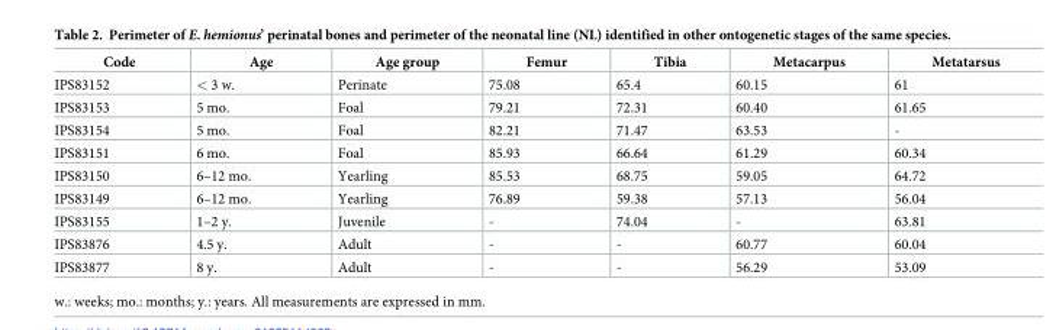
<table><thead><tr><td>Code</td><td>Age</td><td>Age group</td><td>Femur</td><td>Tibia</td><td>Metacarpus</td><td>Metatarsus</td></tr></thead><tbody><tr><td>IPS83152</td><td>&lt; 3 w.</td><td>Perinate</td><td>75.08</td><td>65.4</td><td>60.15</td><td>61</td></tr><tr><td>IPS83153</td><td>5 mo.</td><td>Foal</td><td>79.21</td><td>72.31</td><td>60.40</td><td>61.65</td></tr><tr><td>IPS83154</td><td>5 mo.</td><td>Foal</td><td>82.21</td><td>71.47</td><td>63.53</td><td>-</td></tr><tr><td>IPS83151</td><td>6 mo.</td><td>Foal</td><td>85.93</td><td>66.64</td><td>61.29</td><td>60.34</td></tr><tr><td>IPS83150</td><td>6–12 mo.</td><td>Yearling</td><td>85.53</td><td>68.75</td><td>59.05</td><td>64.72</td></tr><tr><td>IPS83149</td><td>6–12 mo.</td><td>Yearling</td><td>76.89</td><td>59.38</td><td>57.13</td><td>56.04</td></tr><tr><td>IPS83155</td><td>1–2 y.</td><td>Juvenile</td><td>-</td><td>74.04</td><td>-</td><td>63.81</td></tr><tr><td>IPS83876</td><td>4.5 y.</td><td>Adult</td><td>-</td><td>-</td><td>60.77</td><td>60.04</td></tr><tr><td>IPS83877</td><td>8 y.</td><td>Adult</td><td>-</td><td>-</td><td>56.29</td><td>53.09</td></tr></tbody></table>